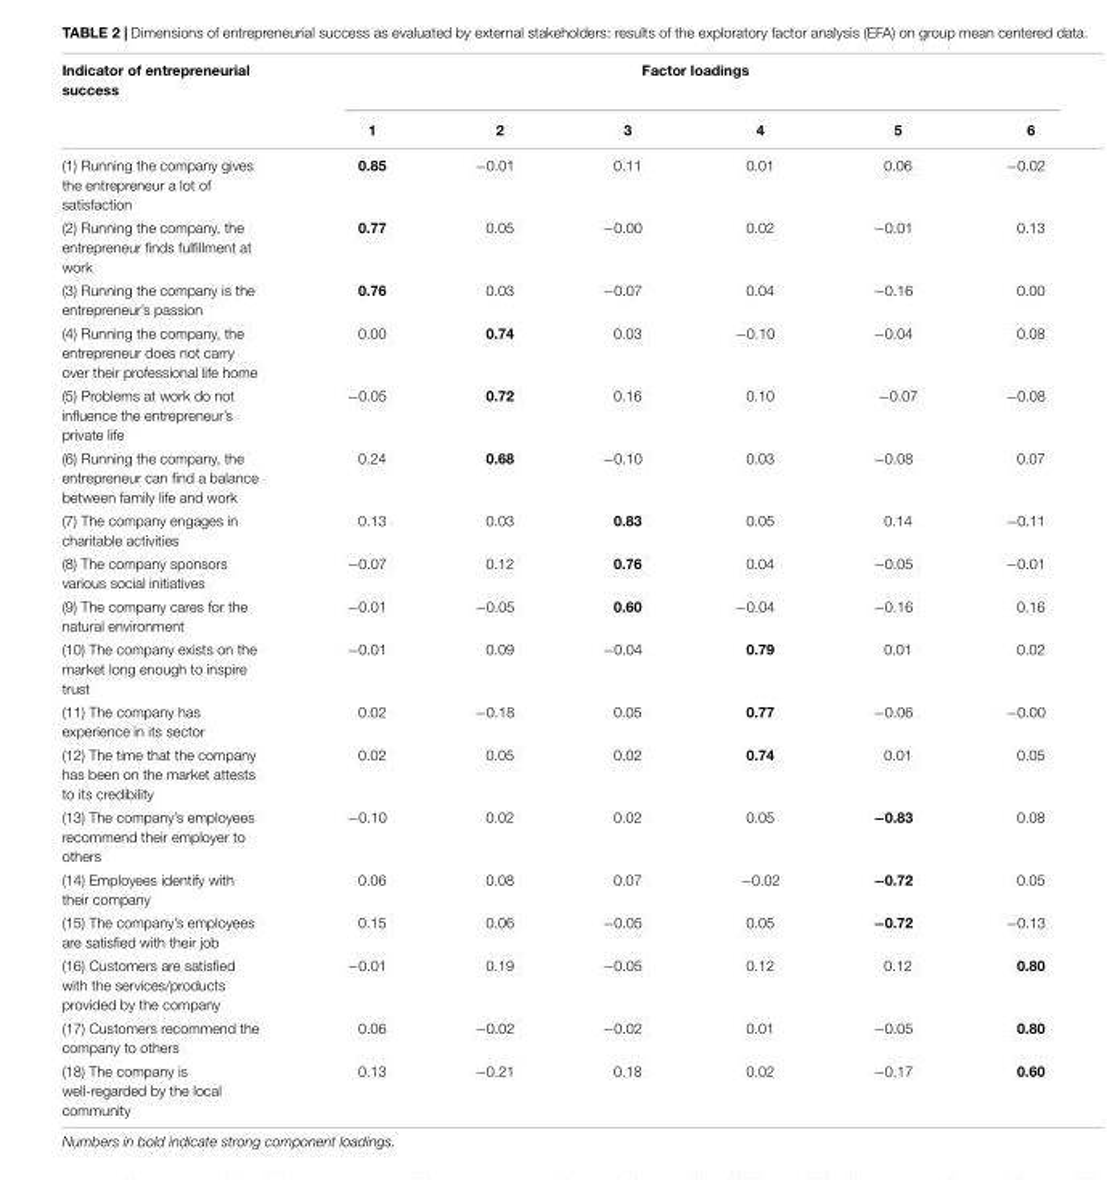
<table><thead><tr><td rowspan="2">Indicator of entrepreneurial success</td><td colspan="6">Factor loadings</td></tr><tr><td>1</td><td>2</td><td>3</td><td>4</td><td>5</td><td>6</td></tr></thead><tbody><tr><td>(1) Running the company gives the entrepreneur a lot of satisfaction</td><td>0.85</td><td>−0.01</td><td>0.11</td><td>0.01</td><td>0.06</td><td>−0.02</td></tr><tr><td>(2) Running the company, the entrepreneur finds fulfillment at work</td><td>0.77</td><td>0.05</td><td>−0.00</td><td>0.02</td><td>−0.01</td><td>0.13</td></tr><tr><td>(3) Running the company is the entrepreneur’s passion</td><td>0.76</td><td>0.03</td><td>−0.07</td><td>0.04</td><td>−0.16</td><td>0.00</td></tr><tr><td>(4) Running the company, the entrepreneur does not carry over their professional life home</td><td>0.00</td><td>0.74</td><td>0.03</td><td>−0.10</td><td>−0.04</td><td>0.08</td></tr><tr><td>(5) Problems at work do not influence the entrepreneur’s private life</td><td>−0.05</td><td>0.72</td><td>0.16</td><td>0.10</td><td>−0.07</td><td>−0.08</td></tr><tr><td>(6) Running the company, the entrepreneur can find a balance between family life and work</td><td>0.24</td><td>0.68</td><td>−0.10</td><td>0.03</td><td>−0.08</td><td>0.07</td></tr><tr><td>(7) The company engages in charitable activities</td><td>0.13</td><td>0.03</td><td>0.83</td><td>0.05</td><td>0.14</td><td>−0.11</td></tr><tr><td>(8) The company sponsors various social initiatives</td><td>−0.07</td><td>0.12</td><td>0.76</td><td>0.04</td><td>−0.05</td><td>−0.01</td></tr><tr><td>(9) The company cares for the natural environment</td><td>−0.01</td><td>−0.05</td><td>0.60</td><td>−0.04</td><td>−0.16</td><td>0.16</td></tr><tr><td>(10) The company exists on the market long enough to inspire trust</td><td>−0.01</td><td>0.09</td><td>−0.04</td><td>0.79</td><td>0.01</td><td>0.02</td></tr><tr><td>(11) The company has experience in its sector</td><td>0.02</td><td>−0.18</td><td>0.05</td><td>0.77</td><td>−0.06</td><td>−0.00</td></tr><tr><td>(12) The time that the company has been on the market attests to its credibility</td><td>0.02</td><td>0.05</td><td>0.02</td><td>0.74</td><td>0.01</td><td>0.05</td></tr><tr><td>(13) The company’s employees recommend their employer to others</td><td>−0.10</td><td>0.02</td><td>0.02</td><td>0.05</td><td>−0.83</td><td>0.08</td></tr><tr><td>(14) Employees identify with their company</td><td>0.06</td><td>0.08</td><td>0.07</td><td>−0.02</td><td>−0.72</td><td>0.05</td></tr><tr><td>(15) The company’s employees are satisfied with their job</td><td>0.15</td><td>0.06</td><td>−0.05</td><td>0.05</td><td>−0.72</td><td>−0.13</td></tr><tr><td>(16) Customers are satisfied with the services/products provided by the company</td><td>−0.01</td><td>0.19</td><td>−0.05</td><td>0.12</td><td>0.12</td><td>0.80</td></tr><tr><td>(17) Customers recommend the company to others</td><td>0.06</td><td>−0.02</td><td>−0.02</td><td>0.01</td><td>−0.05</td><td>0.80</td></tr><tr><td>(18) The company is well-regarded by the local community</td><td>0.13</td><td>−0.21</td><td>0.18</td><td>0.02</td><td>−0.17</td><td>0.60</td></tr></tbody></table>